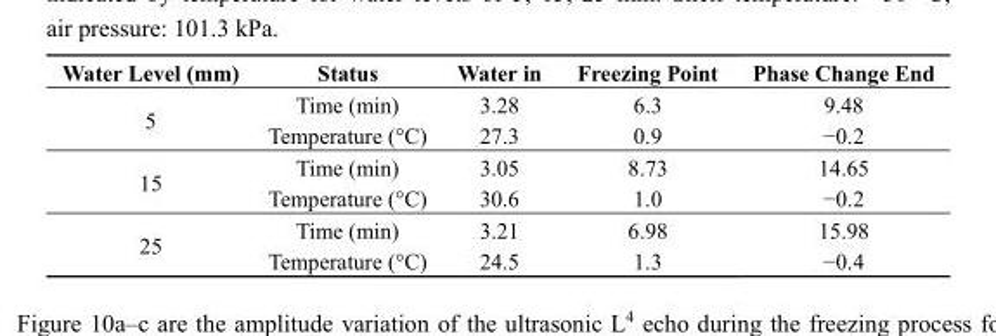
<table><thead><tr><td>Water Level (mm)</td><td>Status</td><td>Water in</td><td>Freezing Point</td><td>Phase Change End</td></tr></thead><tbody><tr><td rowspan="2">5</td><td>Time (min)</td><td>3.28</td><td>6.3</td><td>9.48</td></tr><tr><td>Temperature (°C)</td><td>27.3</td><td>0.9</td><td>−0.2</td></tr><tr><td rowspan="2">15</td><td>Time (min)</td><td>3.05</td><td>8.73</td><td>14.65</td></tr><tr><td>Temperature (°C)</td><td>30.6</td><td>1.0</td><td>−0.2</td></tr><tr><td rowspan="2">25</td><td>Time (min)</td><td>3.21</td><td>6.98</td><td>15.98</td></tr><tr><td>Temperature (°C)</td><td>24.5</td><td>1.3</td><td>−0.4</td></tr></tbody></table>